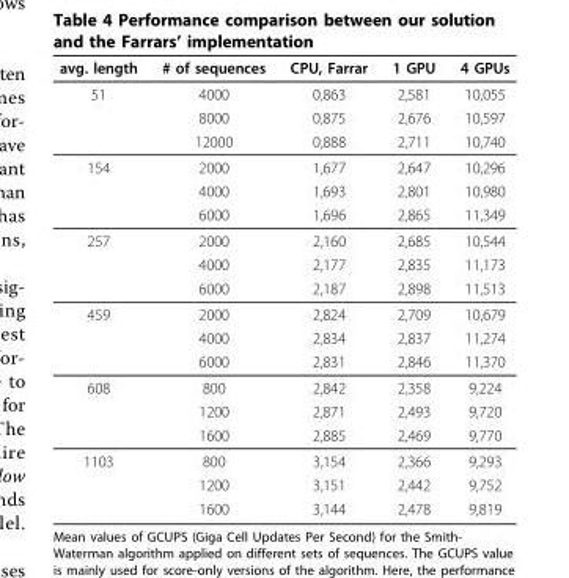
<table><thead><tr><td>avg. length</td><td># of sequences</td><td>CPU, Farrar</td><td>1 GPU</td><td>4 GPUs</td></tr></thead><tbody><tr><td rowspan="3">51</td><td>4000</td><td>0,863</td><td>2,581</td><td>10,055</td></tr><tr><td>8000</td><td>0,875</td><td>2,676</td><td>10,597</td></tr><tr><td>12000</td><td>0,888</td><td>2,711</td><td>10,740</td></tr><tr><td rowspan="3">154</td><td>2000</td><td>1,677</td><td>2,647</td><td>10,296</td></tr><tr><td>4000</td><td>1,693</td><td>2,801</td><td>10,980</td></tr><tr><td>6000</td><td>1,696</td><td>2,865</td><td>11,349</td></tr><tr><td rowspan="3">257</td><td>2000</td><td>2,160</td><td>2,685</td><td>10,544</td></tr><tr><td>4000</td><td>2,177</td><td>2,835</td><td>11,173</td></tr><tr><td>6000</td><td>2,187</td><td>2,898</td><td>11,513</td></tr><tr><td rowspan="3">459</td><td>2000</td><td>2,824</td><td>2,709</td><td>10,679</td></tr><tr><td>4000</td><td>2,834</td><td>2,837</td><td>11,274</td></tr><tr><td>6000</td><td>2,831</td><td>2,846</td><td>11,370</td></tr><tr><td rowspan="3">608</td><td>800</td><td>2,842</td><td>2,358</td><td>9,224</td></tr><tr><td>1200</td><td>2,871</td><td>2,493</td><td>9,720</td></tr><tr><td>1600</td><td>2,885</td><td>2,469</td><td>9,770</td></tr><tr><td rowspan="3">1103</td><td>800</td><td>3,154</td><td>2,366</td><td>9,293</td></tr><tr><td>1200</td><td>3,151</td><td>2,442</td><td>9,752</td></tr><tr><td>1600</td><td>3,144</td><td>2,478</td><td>9,819</td></tr></tbody></table>